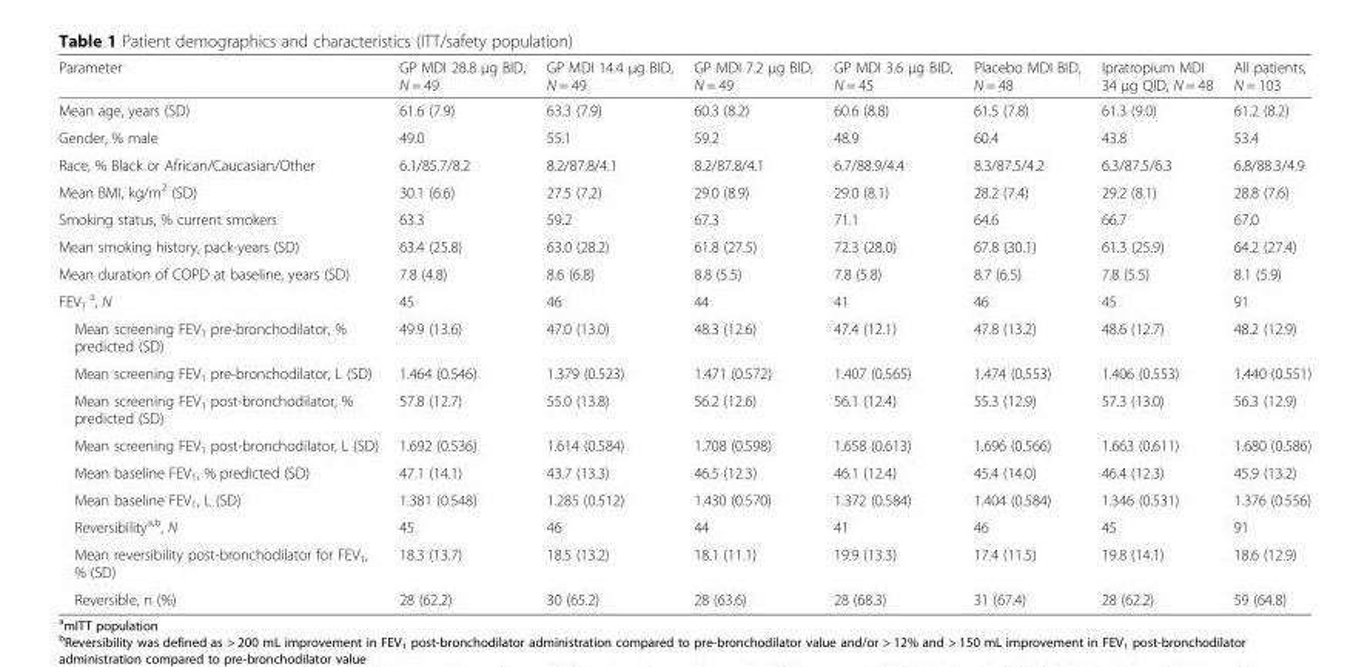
<table><thead><tr><td>Parameter</td><td>GP MDI 28.8 μg BID, N = 49</td><td>GP MDI 14.4 μg BID, N = 49</td><td>GP MDI 7.2 μg BID, N = 49</td><td>GP MDI 3.6 μg BID, N = 45</td><td>Placebo MDI BID, N = 48</td><td>Ipratropium MDI 34 μg QID, N = 48</td><td>All patients, N = 103</td></tr></thead><tbody><tr><td>Mean age, years (SD)</td><td>61.6 (7.9)</td><td>63.3 (7.9)</td><td>60.3 (8.2)</td><td>60.6 (8.8)</td><td>61.5 (7.8)</td><td>61.3 (9.0)</td><td>61.2 (8.2)</td></tr><tr><td>Gender, % male</td><td>49.0</td><td>55.1</td><td>59.2</td><td>48.9</td><td>60.4</td><td>43.8</td><td>53.4</td></tr><tr><td>Race, % Black or African/Caucasian/Other</td><td>6.1/85.7/8.2</td><td>8.2/87.8/4.1</td><td>8.2/87.8/4.1</td><td>6.7/88.9/4.4</td><td>8.3/87.5/4.2</td><td>6.3/87.5/6.3</td><td>6.8/88.3/4.9</td></tr><tr><td>Mean BMI, kg/m<sup>2</sup> (SD)</td><td>30.1 (6.6)</td><td>27.5 (7.2)</td><td>29.0 (8.9)</td><td>29.0 (8.1)</td><td>28.2 (7.4)</td><td>29.2 (8.1)</td><td>28.8 (7.6)</td></tr><tr><td>Smoking status, % current smokers</td><td>63.3</td><td>59.2</td><td>67.3</td><td>71.1</td><td>64.6</td><td>66.7</td><td>67.0</td></tr><tr><td>Mean smoking history, pack-years (SD)</td><td>63.4 (25.8)</td><td>63.0 (28.2)</td><td>61.8 (27.5)</td><td>72.3 (28.0)</td><td>67.8 (30.1)</td><td>61.3 (25.9)</td><td>64.2 (27.4)</td></tr><tr><td>Mean duration of COPD at baseline, years (SD)</td><td>7.8 (4.8)</td><td>8.6 (6.8)</td><td>8.8 (5.5)</td><td>7.8 (5.8)</td><td>8.7 (6.5)</td><td>7.8 (5.5)</td><td>8.1 (5.9)</td></tr><tr><td>FEV<sub>1</sub> <sup>a</sup>, N</td><td>45</td><td>46</td><td>44</td><td>41</td><td>46</td><td>45</td><td>91</td></tr><tr><td>Mean screening FEV<sub>1</sub> pre-bronchodilator, % predicted (SD)</td><td>49.9 (13.6)</td><td>47.0 (13.0)</td><td>48.3 (12.6)</td><td>47.4 (12.1)</td><td>47.8 (13.2)</td><td>48.6 (12.7)</td><td>48.2 (12.9)</td></tr><tr><td>Mean screening FEV<sub>1</sub> pre-bronchodilator, L (SD)</td><td>1.464 (0.546)</td><td>1.379 (0.523)</td><td>1.471 (0.572)</td><td>1.407 (0.565)</td><td>1.474 (0.553)</td><td>1.406 (0.553)</td><td>1.440 (0.551)</td></tr><tr><td>Mean screening FEV<sub>1</sub> post-bronchodilator, % predicted (SD)</td><td>57.8 (12.7)</td><td>55.0 (13.8)</td><td>56.2 (12.6)</td><td>56.1 (12.4)</td><td>55.3 (12.9)</td><td>57.3 (13.0)</td><td>56.3 (12.9)</td></tr><tr><td>Mean screening FEV<sub>1</sub> post-bronchodilator, L (SD)</td><td>1.692 (0.536)</td><td>1.614 (0.584)</td><td>1.708 (0.598)</td><td>1.658 (0.613)</td><td>1.696 (0.566)</td><td>1.663 (0.611)</td><td>1.680 (0.586)</td></tr><tr><td>Mean baseline FEV<sub>1</sub>, % predicted (SD)</td><td>47.1 (14.1)</td><td>43.7 (13.3)</td><td>46.5 (12.3)</td><td>46.1 (12.4)</td><td>45.4 (14.0)</td><td>46.4 (12.3)</td><td>45.9 (13.2)</td></tr><tr><td>Mean baseline FEV<sub>1</sub>, L (SD)</td><td>1.381 (0.548)</td><td>1.285 (0.512)</td><td>1.430 (0.570)</td><td>1.372 (0.584)</td><td>1.404 (0.584)</td><td>1.346 (0.531)</td><td>1.376 (0.556)</td></tr><tr><td>Reversibility<sup>a,b</sup>, N</td><td>45</td><td>46</td><td>44</td><td>41</td><td>46</td><td>45</td><td>91</td></tr><tr><td>Mean reversibility post-bronchodilator for FEV<sub>1</sub>, % (SD)</td><td>18.3 (13.7)</td><td>18.5 (13.2)</td><td>18.1 (11.1)</td><td>19.9 (13.3)</td><td>17.4 (11.5)</td><td>19.8 (14.1)</td><td>18.6 (12.9)</td></tr><tr><td>Reversible, n (%)</td><td>28 (62.2)</td><td>30 (65.2)</td><td>28 (63.6)</td><td>28 (68.3)</td><td>31 (67.4)</td><td>28 (62.2)</td><td>59 (64.8)</td></tr></tbody></table>